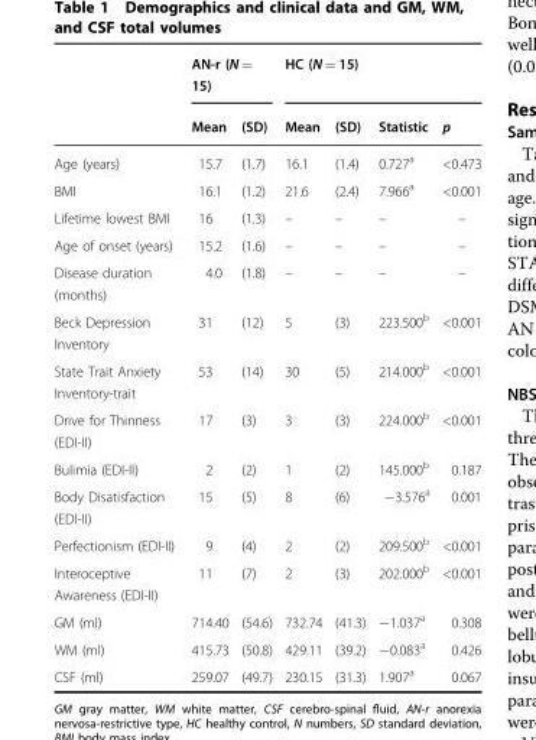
<table><thead><tr><td rowspan="2"></td><td colspan="2">AN-r (N = 15)</td><td colspan="4">HC (N = 15)</td></tr><tr><td>Mean</td><td>(SD)</td><td>Mean</td><td>(SD)</td><td>Statistic</td><td>p</td></tr></thead><tbody><tr><td>Age (years)</td><td>15.7</td><td>(1.7)</td><td>16.1</td><td>(1.4)</td><td>0.727<sup>a</sup></td><td>&lt;0.473</td></tr><tr><td>BMI</td><td>16.1</td><td>(1.2)</td><td>21.6</td><td>(2.4)</td><td>7.966<sup>a</sup></td><td>&lt;0.001</td></tr><tr><td>Lifetime lowest BMI</td><td>16</td><td>(1.3)</td><td>–</td><td>–</td><td>–</td><td>–</td></tr><tr><td>Age of onset (years)</td><td>15.2</td><td>(1.6)</td><td>–</td><td>–</td><td>–</td><td>–</td></tr><tr><td>Disease duration (months)</td><td>4.0</td><td>(1.8)</td><td>–</td><td>–</td><td>–</td><td>–</td></tr><tr><td>Beck Depression Inventory</td><td>31</td><td>(12)</td><td>5</td><td>(3)</td><td>223.500<sup>b</sup></td><td>&lt;0.001</td></tr><tr><td>State Trait Anxiety Inventory-trait</td><td>53</td><td>(14)</td><td>30</td><td>(5)</td><td>214.000<sup>b</sup></td><td>&lt;0.001</td></tr><tr><td>Drive for Thinness (EDI-II)</td><td>17</td><td>(3)</td><td>3</td><td>(3)</td><td>224.000<sup>b</sup></td><td>&lt;0.001</td></tr><tr><td>Bulimia (EDI-II)</td><td>2</td><td>(2)</td><td>1</td><td>(2)</td><td>145.000<sup>b</sup></td><td>0.187</td></tr><tr><td>Body Disatisfaction (EDI-II)</td><td>15</td><td>(5)</td><td>8</td><td>(6)</td><td>−3.576<sup>a</sup></td><td>0.001</td></tr><tr><td>Perfectionism (EDI-II)</td><td>9</td><td>(4)</td><td>2</td><td>(2)</td><td>209.500<sup>b</sup></td><td>&lt;0.001</td></tr><tr><td>Interoceptive Awareness (EDI-II)</td><td>11</td><td>(7)</td><td>2</td><td>(3)</td><td>202.000<sup>b</sup></td><td>&lt;0.001</td></tr><tr><td>GM (ml)</td><td>714.40</td><td>(54.6)</td><td>732.74</td><td>(41.3)</td><td>−1.037<sup>a</sup></td><td>0.308</td></tr><tr><td>WM (ml)</td><td>415.73</td><td>(50.8)</td><td>429.11</td><td>(39.2)</td><td>−0.083<sup>a</sup></td><td>0.426</td></tr><tr><td>CSF (ml)</td><td>259.07</td><td>(49.7)</td><td>230.15</td><td>(31.3)</td><td>1.907<sup>a</sup></td><td>0.067</td></tr></tbody></table>